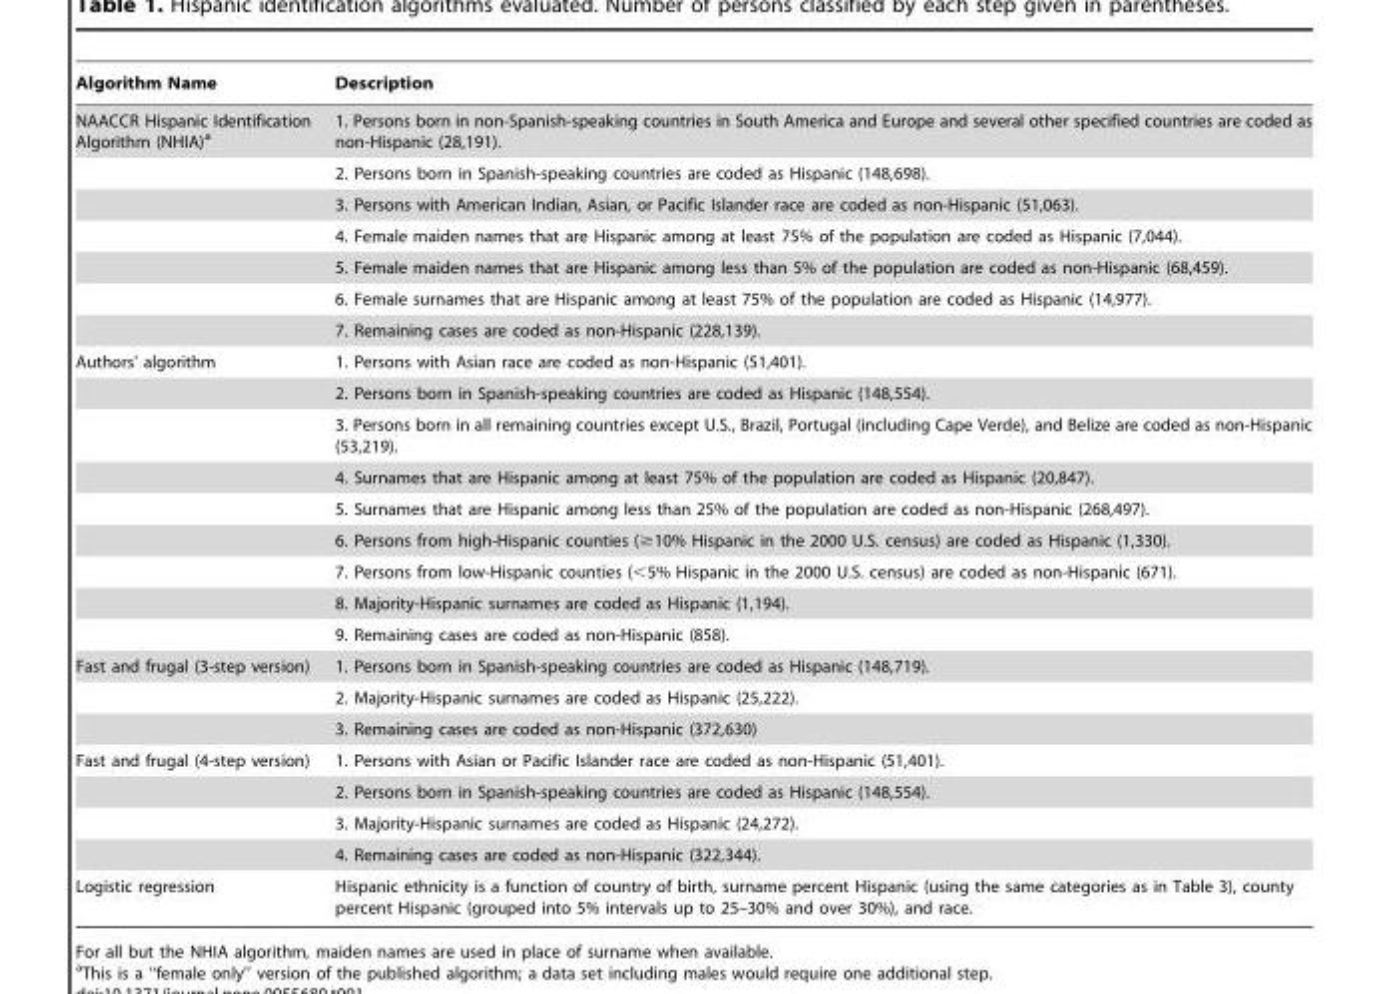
<table><thead><tr><td>Algorithm Name</td><td>Description</td></tr></thead><tbody><tr><td rowspan="7">NAACCR Hispanic Identification Algorithm (NHIA)<sup>a</sup></td><td>1. Persons born in non-Spanish-speaking countries in South America and Europe and several other specified countries are coded as non-Hispanic (28,191).</td></tr><tr><td>2. Persons born in Spanish-speaking countries are coded as Hispanic (148,698).</td></tr><tr><td>3. Persons with American Indian, Asian, or Pacific Islander race are coded as non-Hispanic (51,063).</td></tr><tr><td>4. Female maiden names that are Hispanic among at least 75% of the population are coded as Hispanic (7,044).</td></tr><tr><td>5. Female maiden names that are Hispanic among less than 5% of the population are coded as non-Hispanic (68,459).</td></tr><tr><td>6. Female surnames that are Hispanic among at least 75% of the population are coded as Hispanic (14,977).</td></tr><tr><td>7. Remaining cases are coded as non-Hispanic (228,139).</td></tr><tr><td rowspan="9">Authors’ algorithm</td><td>1. Persons with Asian race are coded as non-Hispanic (51,401).</td></tr><tr><td>2. Persons born in Spanish-speaking countries are coded as Hispanic (148,554).</td></tr><tr><td>3. Persons born in all remaining countries except U.S., Brazil, Portugal (including Cape Verde), and Belize are coded as non-Hispanic (53,219).</td></tr><tr><td>4. Surnames that are Hispanic among at least 75% of the population are coded as Hispanic (20,847).</td></tr><tr><td>5. Surnames that are Hispanic among less than 25% of the population are coded as non-Hispanic (268,497).</td></tr><tr><td>6. Persons from high-Hispanic counties (≥10% Hispanic in the 2000 U.S. census) are coded as Hispanic (1,330).</td></tr><tr><td>7. Persons from low-Hispanic counties (&lt;5% Hispanic in the 2000 U.S. census) are coded as non-Hispanic (671).</td></tr><tr><td>8. Majority-Hispanic surnames are coded as Hispanic (1,194).</td></tr><tr><td>9. Remaining cases are coded as non-Hispanic (858).</td></tr><tr><td rowspan="3">Fast and frugal (3-step version)</td><td>1. Persons born in Spanish-speaking countries are coded as Hispanic (148,719).</td></tr><tr><td>2. Majority-Hispanic surnames are coded as Hispanic (25,222).</td></tr><tr><td>3. Remaining cases are coded as non-Hispanic (372,630)</td></tr><tr><td rowspan="4">Fast and frugal (4-step version)</td><td>1. Persons with Asian or Pacific Islander race are coded as non-Hispanic (51,401).</td></tr><tr><td>2. Persons born in Spanish-speaking countries are coded as Hispanic (148,554).</td></tr><tr><td>3. Majority-Hispanic surnames are coded as Hispanic (24,272).</td></tr><tr><td>4. Remaining cases are coded as non-Hispanic (322,344).</td></tr><tr><td>Logistic regression</td><td>Hispanic ethnicity is a function of country of birth, surname percent Hispanic (using the same categories as in Table 3), county percent Hispanic (grouped into 5% intervals up to 25–30% and over 30%), and race.</td></tr></tbody></table>